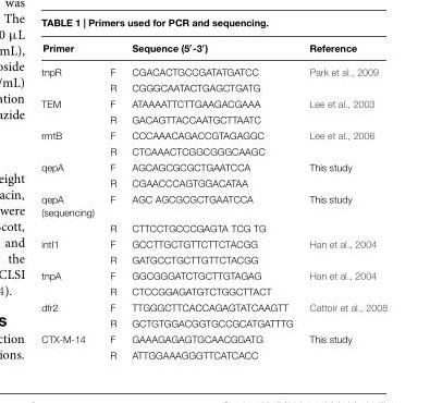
<table><thead><tr><td colspan="2">Primer</td><td rowspan="2">Sequence (5′-3′) CGACACTGCCGATATGATCC</td><td rowspan="2">Reference Park et al., 2009</td></tr><tr><td>tnpR</td><td>F</td></tr></thead><tbody><tr><td></td><td>R</td><td>CGGGCAATACTGAGCTGATG</td><td></td></tr><tr><td rowspan="2">TEM</td><td>F</td><td>ATAAAATTCTTGAAGACGAAA</td><td>Lee et al., 2003</td></tr><tr><td>R</td><td>GACAGTTACCAATGCTTAATC</td><td></td></tr><tr><td rowspan="2">rmtB</td><td>F</td><td>CCCAAACAGACCGTAGAGGC</td><td>Lee et al., 2006</td></tr><tr><td>R</td><td>CTCAAACTCGGCGGGCAAGC</td><td></td></tr><tr><td rowspan="2">qepA</td><td>F</td><td>AGCAGCGCGCTGAATCCA</td><td>This study</td></tr><tr><td>R</td><td>CGAACCCAGTGGACATAA</td><td></td></tr><tr><td rowspan="2">qepA (sequencing)</td><td>F</td><td>AGC AGCGCGCTGAATCCA</td><td>This study</td></tr><tr><td>R</td><td>CTTCCTGCCCGAGTA TCG TG</td><td></td></tr><tr><td rowspan="2">intI1</td><td>F</td><td>GCCTTGCTGTTCTTCTACGG</td><td>Han et al., 2004</td></tr><tr><td>R</td><td>GATGCCTGCTTGTTCTACGG</td><td></td></tr><tr><td rowspan="2">tnpA</td><td>F</td><td>GGCGGGATCTGCTTGTAGAG</td><td>Han et al., 2004</td></tr><tr><td>R</td><td>CTCCGGAGATGTCTGGCTTACT</td><td></td></tr><tr><td rowspan="2">dfr2</td><td>F</td><td>TTGGGCTTCACCAGAGTATCAAGTT</td><td>Cattoir et al., 2008</td></tr><tr><td>R</td><td>GCTGTGGACGGTGCCGCATGATTTG</td><td></td></tr><tr><td rowspan="2">CTX-M-14</td><td>F</td><td>GAAAGAGAGTGCAACGGATG</td><td>This study</td></tr><tr><td>R</td><td>ATTGGAAAGGGTTCATCACC</td><td></td></tr></tbody></table>